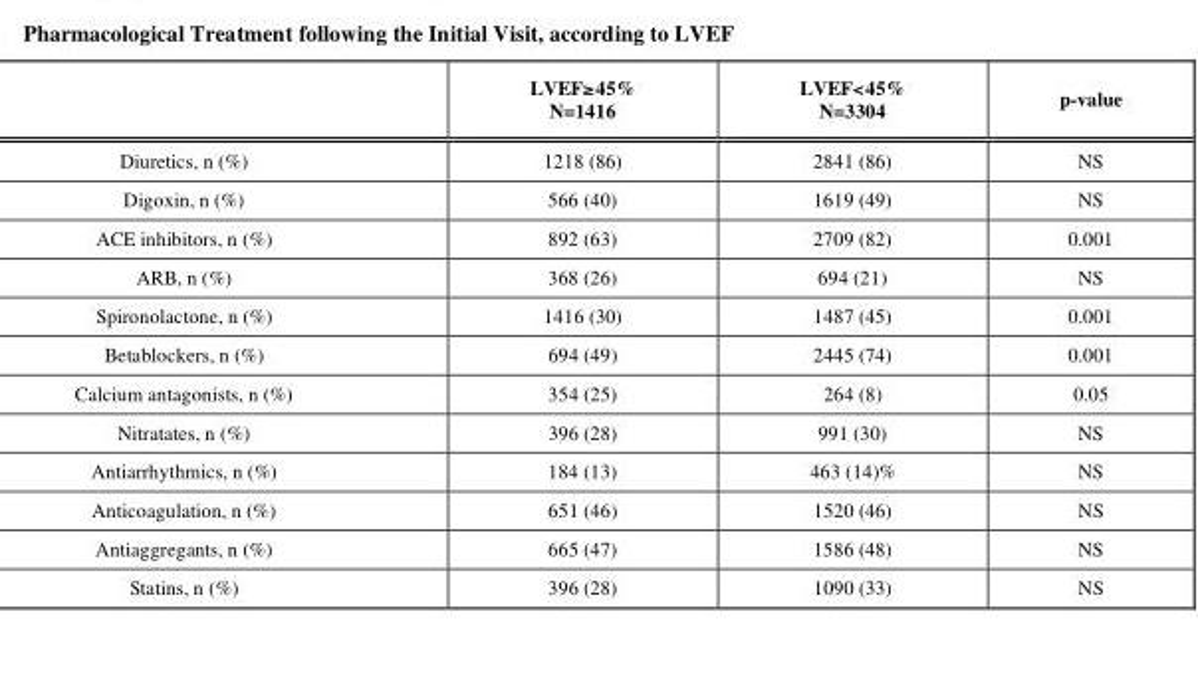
<table><thead><tr><td></td><td>LVEF≥45% N=1416</td><td>LVEF&lt;45% N=3304</td><td>p-value</td></tr></thead><tbody><tr><td>Diuretics, n (%)</td><td>1218 (86)</td><td>2841 (86)</td><td>NS</td></tr><tr><td>Digoxin, n (%)</td><td>566 (40)</td><td>1619 (49)</td><td>NS</td></tr><tr><td>ACE inhibitors, n (%)</td><td>892 (63)</td><td>2709 (82)</td><td>0.001</td></tr><tr><td>ARB, n (%)</td><td>368 (26)</td><td>694 (21)</td><td>NS</td></tr><tr><td>Spironolactone, n (%)</td><td>1416 (30)</td><td>1487 (45)</td><td>0.001</td></tr><tr><td>Betablockers, n (%)</td><td>694 (49)</td><td>2445 (74)</td><td>0.001</td></tr><tr><td>Calcium antagonists, n (%)</td><td>354 (25)</td><td>264 (8)</td><td>0.05</td></tr><tr><td>Nitratates, n (%)</td><td>396 (28)</td><td>991 (30)</td><td>NS</td></tr><tr><td>Antiarrhythmics, n (%)</td><td>184 (13)</td><td>463 (14)%</td><td>NS</td></tr><tr><td>Anticoagulation, n (%)</td><td>651 (46)</td><td>1520 (46)</td><td>NS</td></tr><tr><td>Antiaggregants, n (%)</td><td>665 (47)</td><td>1586 (48)</td><td>NS</td></tr><tr><td>Statins, n (%)</td><td>396 (28)</td><td>1090 (33)</td><td>NS</td></tr></tbody></table>